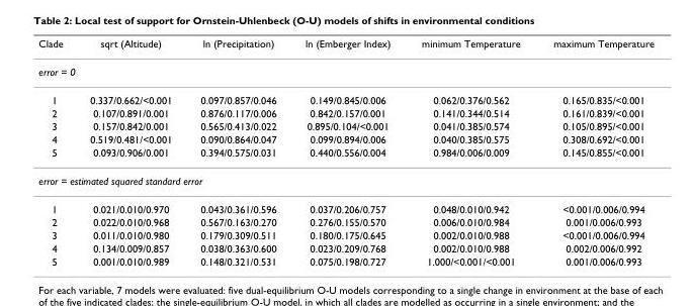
<table><thead><tr><td>Clade</td><td>sqrt (Altitude)</td><td>ln (Precipitation)</td><td>ln (Emberger Index)</td><td>minimum Temperature</td><td>maximum Temperature</td></tr></thead><tbody><tr><td colspan="6">error = 0</td></tr><tr><td>1</td><td>0.337/0.662/&lt;0.001</td><td>0.097/0.857/0.046</td><td>0.149/0.845/0.006</td><td>0.062/0.376/0.562</td><td>0.165/0.835/&lt;0.001</td></tr><tr><td>2</td><td>0.107/0.891/0.001</td><td>0.876/0.117/0.006</td><td>0.842/0.157/0.001</td><td>0.141/0.344/0.514</td><td>0.161/0.839/&lt;0.001</td></tr><tr><td>3</td><td>0.157/0.842/0.001</td><td>0.565/0.413/0.022</td><td>0.895/0.104/&lt;0.001</td><td>0.041/0.385/0.574</td><td>0.105/0.895/&lt;0.001</td></tr><tr><td>4</td><td>0.519/0.481/&lt;0.001</td><td>0.090/0.864/0.047</td><td>0.099/0.894/0.006</td><td>0.040/0.385/0.575</td><td>0.308/0.692/&lt;0.001</td></tr><tr><td>5</td><td>0.093/0.906/0.001</td><td>0.394/0.575/0.031</td><td>0.440/0.556/0.004</td><td>0.984/0.006/0.009</td><td>0.145/0.855/&lt;0.001</td></tr><tr><td colspan="6">error = estimated squared standard error</td></tr><tr><td>1</td><td>0.021/0.010/0.970</td><td>0.043/0.361/0.596</td><td>0.037/0.206/0.757</td><td>0.048/0.010/0.942</td><td>&lt;0.001/0.006/0.994</td></tr><tr><td>2</td><td>0.022/0.010/0.968</td><td>0.567/0.163/0.270</td><td>0.276/0.155/0.570</td><td>0.006/0.010/0.984</td><td>0.001/0.006/0.993</td></tr><tr><td>3</td><td>0.011/0.010/0.980</td><td>0.179/0.309/0.511</td><td>0.180/0.175/0.645</td><td>0.002/0.010/0.988</td><td>&lt;0.001/0.006/0.994</td></tr><tr><td>4</td><td>0.134/0.009/0.857</td><td>0.038/0.363/0.600</td><td>0.023/0.209/0.768</td><td>0.002/0.010/0.988</td><td>0.002/0.006/0.992</td></tr><tr><td>5</td><td>0.001/0.010/0.989</td><td>0.148/0.321/0.531</td><td>0.075/0.198/0.727</td><td>1.000/&lt;0.001/&lt;0.001</td><td>0.001/0.006/0.993</td></tr></tbody></table>